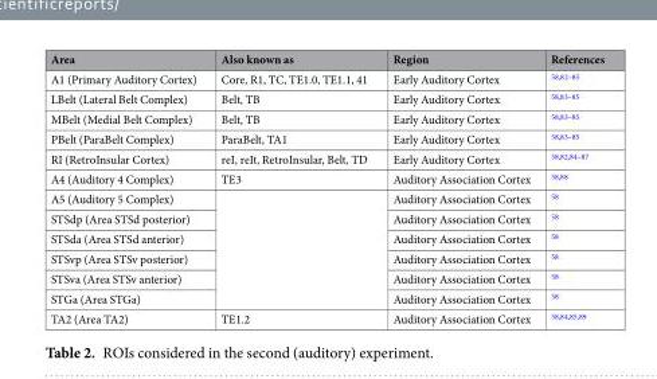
<table><thead><tr><td>Area</td><td>Also known as</td><td>Region</td><td>References</td></tr></thead><tbody><tr><td>A1 (Primary Auditory Cortex)</td><td>Core, R1, TC, TE1.0, TE1.1, 41</td><td>Early Auditory Cortex</td><td><sup>58,82–85</sup></td></tr><tr><td>LBelt (Lateral Belt Complex)</td><td>Belt, TB</td><td>Early Auditory Cortex</td><td><sup>58,83–85</sup></td></tr><tr><td>MBelt (Medial Belt Complex)</td><td>Belt, TB</td><td>Early Auditory Cortex</td><td><sup>58,83–85</sup></td></tr><tr><td>PBelt (ParaBelt Complex)</td><td>ParaBelt, TA1</td><td>Early Auditory Cortex</td><td><sup>58,83–85</sup></td></tr><tr><td>RI (RetroInsular Cortex)</td><td>reI, reIt, RetroInsular, Belt, TD</td><td>Early Auditory Cortex</td><td><sup>58,82,84–87</sup></td></tr><tr><td>A4 (Auditory 4 Complex)</td><td>TE3</td><td>Auditory Association Cortex</td><td><sup>58,88</sup></td></tr><tr><td>A5 (Auditory 5 Complex)</td><td rowspan="6"></td><td>Auditory Association Cortex</td><td><sup>58</sup></td></tr><tr><td>STSdp (Area STSd posterior)</td><td>Auditory Association Cortex</td><td><sup>58</sup></td></tr><tr><td>STSda (Area STSd anterior)</td><td>Auditory Association Cortex</td><td><sup>58</sup></td></tr><tr><td>STSvp (Area STSv posterior)</td><td>Auditory Association Cortex</td><td><sup>58</sup></td></tr><tr><td>STSva (Area STSv anterior)</td><td>Auditory Association Cortex</td><td><sup>58</sup></td></tr><tr><td>STGa (Area STGa)</td><td>Auditory Association Cortex</td><td><sup>58</sup></td></tr><tr><td>TA2 (Area TA2)</td><td>TE1.2</td><td>Auditory Association Cortex</td><td><sup>58,84,85,89</sup></td></tr></tbody></table>